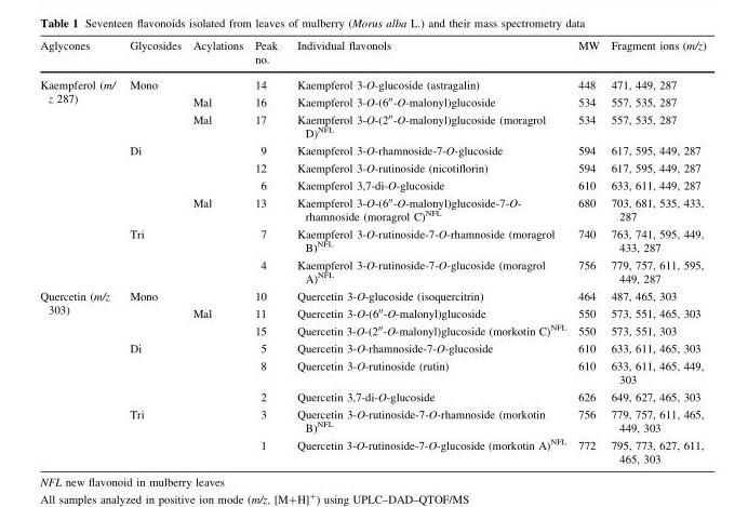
<table><thead><tr><td>Aglycones</td><td>Glycosides</td><td>Acylations</td><td>Peak no.</td><td>Individual flavonols</td><td>MW</td><td>Fragment ions (m/z)</td></tr></thead><tbody><tr><td rowspan="9">Kaempferol (m/ z 287)</td><td rowspan="3">Mono</td><td></td><td>14</td><td>Kaempferol 3-O-glucoside (astragalin)</td><td>448</td><td>471, 449, 287</td></tr><tr><td>Mal</td><td>16</td><td>Kaempferol 3-O-(600-O-malonyl)glucoside</td><td>534</td><td>557, 535, 287</td></tr><tr><td>Mal</td><td>17</td><td>Kaempferol 3-O-(200-O-malonyl)glucoside (moragrol D)NFL</td><td>534</td><td>557, 535, 287</td></tr><tr><td rowspan="4">Di</td><td></td><td>9</td><td>Kaempferol 3-O-rhamnoside-7-O-glucoside</td><td>594</td><td>617, 595, 449, 287</td></tr><tr><td></td><td>12</td><td>Kaempferol 3-O-rutinoside (nicotiflorin)</td><td>594</td><td>617, 595, 449, 287</td></tr><tr><td></td><td>6</td><td>Kaempferol 3,7-di-O-glucoside</td><td>610</td><td>633, 611, 449, 287</td></tr><tr><td>Mal</td><td>13</td><td>Kaempferol 3-O-(600-O-malonyl)glucoside-7-O- rhamnoside (moragrol C)NFL</td><td>680</td><td>703, 681, 535, 433, 287</td></tr><tr><td rowspan="2">Tri</td><td></td><td>7</td><td>Kaempferol 3-O-rutinoside-7-O-rhamnoside (moragrol B)<sup>NFL</sup></td><td>740</td><td>763, 741, 595, 449, 433, 287</td></tr><tr><td></td><td>4</td><td>Kaempferol 3-O-rutinoside-7-O-glucoside (moragrol A)<sup>NFL</sup></td><td>756</td><td>779, 757, 611, 595, 449, 287</td></tr><tr><td rowspan="8">Quercetin (m/z 303)</td><td rowspan="3">Mono</td><td></td><td>10</td><td>Quercetin 3-O-glucoside (isoquercitrin)</td><td>464</td><td>487, 465, 303</td></tr><tr><td>Mal</td><td>11</td><td>Quercetin 3-O-(600-O-malonyl)glucoside</td><td>550</td><td>573, 551, 465, 303</td></tr><tr><td></td><td>15</td><td>Quercetin 3-O-(200-O-malonyl)glucoside (morkotin C)NFL</td><td>550</td><td>573, 551, 303</td></tr><tr><td rowspan="3">Di</td><td></td><td>5</td><td>Quercetin 3-O-rhamnoside-7-O-glucoside</td><td>610</td><td>633, 611, 465, 303</td></tr><tr><td></td><td>8</td><td>Quercetin 3-O-rutinoside (rutin)</td><td>610</td><td>633, 611, 465, 449, 303</td></tr><tr><td></td><td>2</td><td>Quercetin 3,7-di-O-glucoside</td><td>626</td><td>649, 627, 465, 303</td></tr><tr><td rowspan="2">Tri</td><td></td><td>3</td><td>Quercetin 3-O-rutinoside-7-O-rhamnoside (morkotin B)<sup>NFL</sup></td><td>756</td><td>779, 757, 611, 465, 449, 303</td></tr><tr><td></td><td>1</td><td>Quercetin 3-O-rutinoside-7-O-glucoside (morkotin A)<sup>NFL</sup></td><td>772</td><td>795, 773, 627, 611, 465, 303</td></tr></tbody></table>